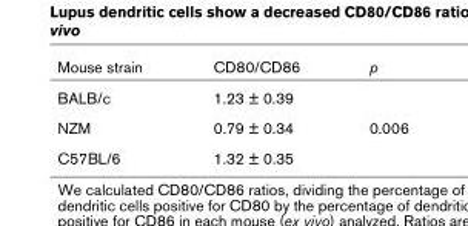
<table><thead><tr><td>Mouse strain</td><td>CD80/CD86</td><td>p</td></tr></thead><tbody><tr><td>BALB/c</td><td>1.23 ± 0.39</td><td></td></tr><tr><td>NZM</td><td>0.79 ± 0.34</td><td>0.006</td></tr><tr><td>C57BL/6</td><td>1.32 ± 0.35</td><td></td></tr></tbody></table>